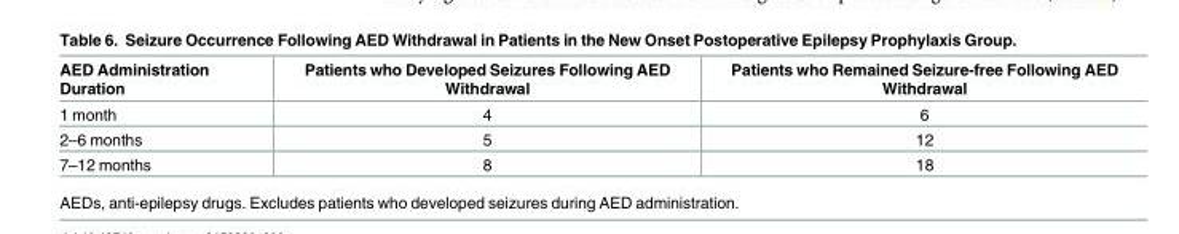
<table><thead><tr><td>AED Administration Duration</td><td>Patients who Developed Seizures Following AED Withdrawal</td><td>Patients who Remained Seizure-free Following AED Withdrawal</td></tr></thead><tbody><tr><td>1 month</td><td>4</td><td>6</td></tr><tr><td>2–6 months</td><td>5</td><td>12</td></tr><tr><td>7–12 months</td><td>8</td><td>18</td></tr></tbody></table>